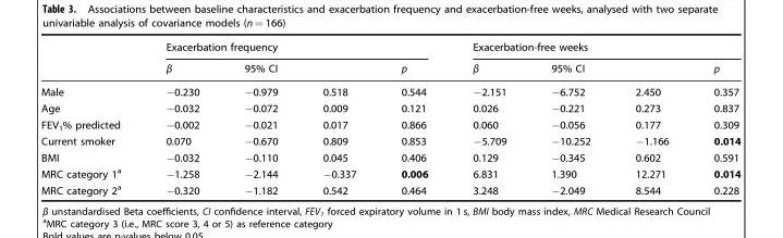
<table><thead><tr><td rowspan="3">Male</td><td colspan="4">Exacerbation frequency</td><td colspan="4">Exacerbation-free weeks</td></tr><tr><td rowspan="2">β −0.230</td><td colspan="2">95% CI</td><td rowspan="2">p 0.544</td><td rowspan="2">β −2.151</td><td colspan="2">95% CI</td><td rowspan="2">p 0.357</td></tr><tr><td>−0.979</td><td>0.518</td><td>−6.752</td><td>2.450</td></tr></thead><tbody><tr><td>Age</td><td>−0.032</td><td>−0.072</td><td>0.009</td><td>0.121</td><td>0.026</td><td>−0.221</td><td>0.273</td><td>0.837</td></tr><tr><td>FEV<sub>1</sub>% predicted</td><td>−0.002</td><td>−0.021</td><td>0.017</td><td>0.866</td><td>0.060</td><td>−0.056</td><td>0.177</td><td>0.309</td></tr><tr><td>Current smoker</td><td>0.070</td><td>−0.670</td><td>0.809</td><td>0.853</td><td>−5.709</td><td>−10.252</td><td>−1.166</td><td>0.014</td></tr><tr><td>BMI</td><td>−0.032</td><td>−0.110</td><td>0.045</td><td>0.406</td><td>0.129</td><td>−0.345</td><td>0.602</td><td>0.591</td></tr><tr><td>MRC category 1<sup>a</sup></td><td>−1.258</td><td>−2.144</td><td>−0.337</td><td>0.006</td><td>6.831</td><td>1.390</td><td>12.271</td><td>0.014</td></tr><tr><td>MRC category 2<sup>a</sup></td><td>−0.320</td><td>−1.182</td><td>0.542</td><td>0.464</td><td>3.248</td><td>−2.049</td><td>8.544</td><td>0.228</td></tr></tbody></table>